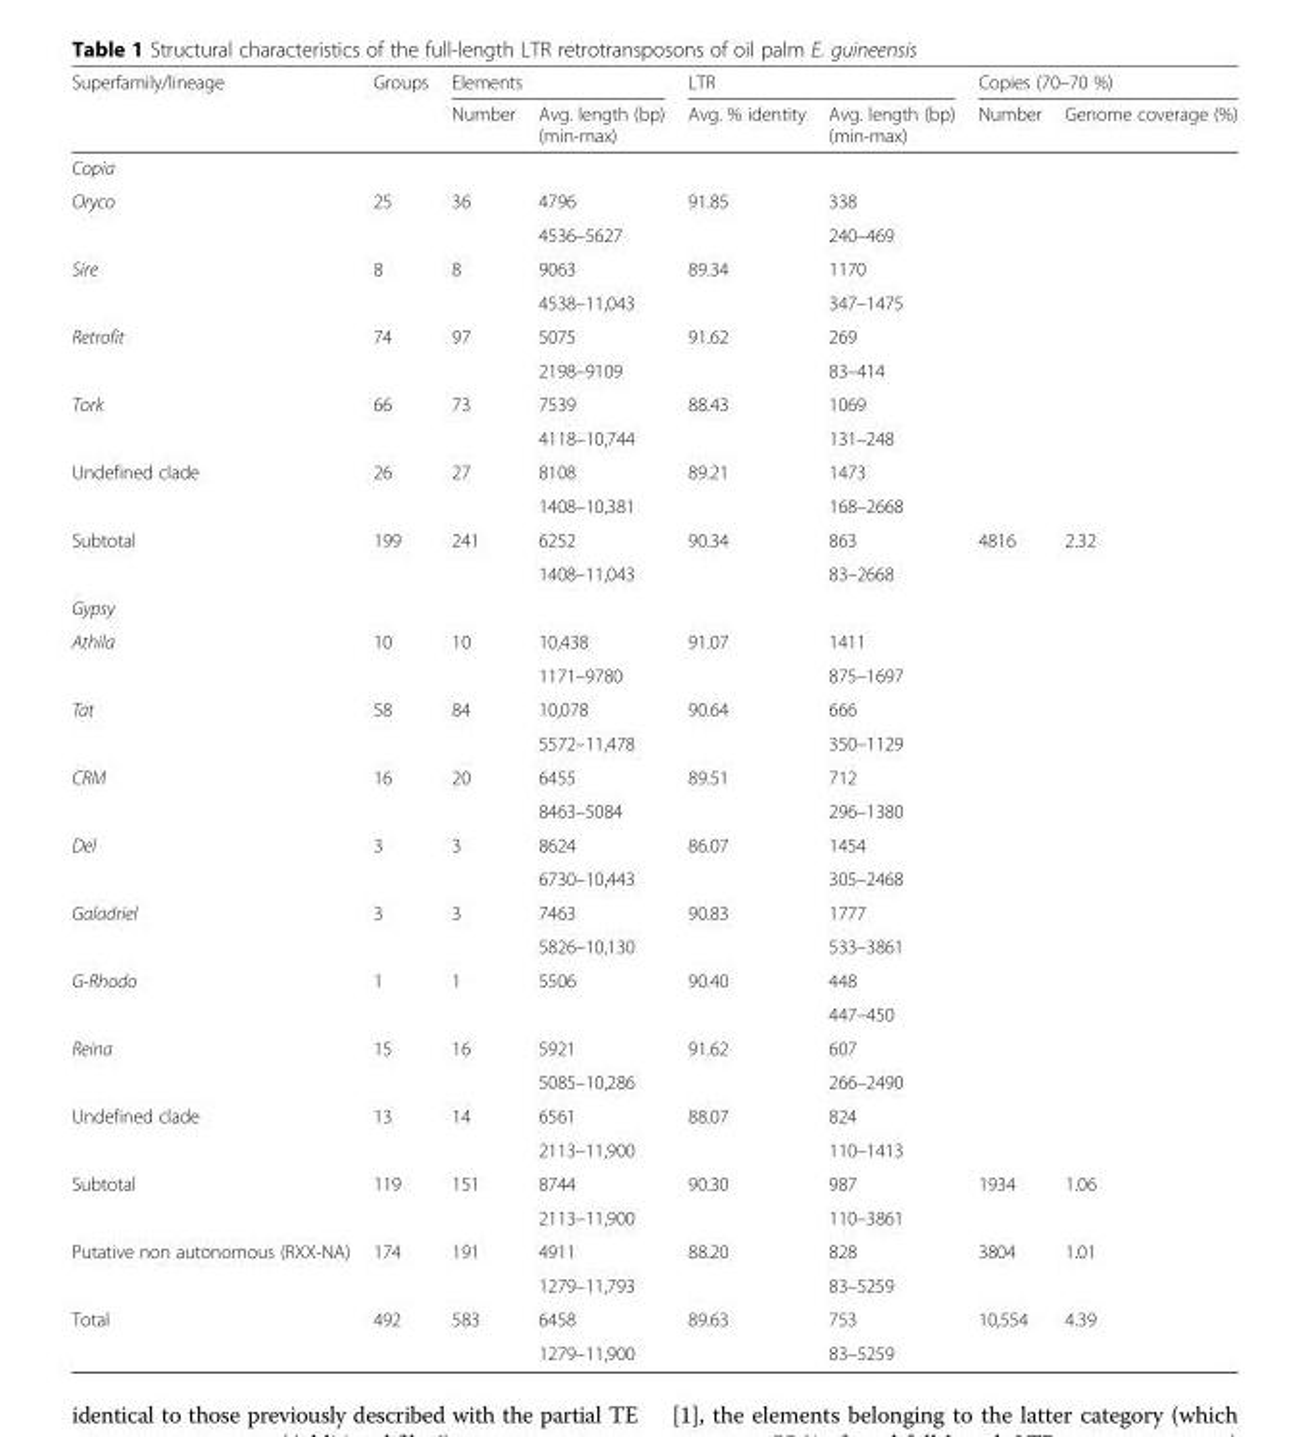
<table><thead><tr><td rowspan="2">Superfamily/lineage</td><td rowspan="2">Groups</td><td colspan="2">Elements</td><td colspan="2">LTR</td><td colspan="2">Copies (70–70 %)</td></tr><tr><td>Number</td><td>Avg. length (bp) (min-max)</td><td>Avg. % identity</td><td>Avg. length (bp) (min-max)</td><td>Number</td><td>Genome coverage (%)</td></tr></thead><tbody><tr><td colspan="8">Copia</td></tr><tr><td rowspan="2">Oryco</td><td>25</td><td>36</td><td>4796</td><td>91.85</td><td>338</td><td></td><td></td></tr><tr><td></td><td></td><td>4536–5627</td><td></td><td>240–469</td><td></td><td></td></tr><tr><td rowspan="2">Sire</td><td>8</td><td>8</td><td>9063</td><td>89.34</td><td>1170</td><td></td><td></td></tr><tr><td></td><td></td><td>4538–11,043</td><td></td><td>347–1475</td><td></td><td></td></tr><tr><td rowspan="2">Retrofit</td><td>74</td><td>97</td><td>5075</td><td>91.62</td><td>269</td><td></td><td></td></tr><tr><td></td><td></td><td>2198–9109</td><td></td><td>83–414</td><td></td><td></td></tr><tr><td rowspan="2">Tork</td><td>66</td><td>73</td><td>7539</td><td>88.43</td><td>1069</td><td></td><td></td></tr><tr><td></td><td></td><td>4118–10,744</td><td></td><td>131–248</td><td></td><td></td></tr><tr><td rowspan="2">Undefined clade</td><td>26</td><td>27</td><td>8108</td><td>89.21</td><td>1473</td><td></td><td></td></tr><tr><td></td><td></td><td>1408–10,381</td><td></td><td>168–2668</td><td></td><td></td></tr><tr><td rowspan="2">Subtotal</td><td>199</td><td>241</td><td>6252</td><td>90.34</td><td>863</td><td>4816</td><td>2.32</td></tr><tr><td></td><td></td><td>1408–11,043</td><td></td><td>83–2668</td><td></td><td></td></tr><tr><td colspan="8">Gypsy</td></tr><tr><td rowspan="2">Athila</td><td>10</td><td>10</td><td>10,438</td><td>91.07</td><td>1411</td><td></td><td></td></tr><tr><td></td><td></td><td>1171–9780</td><td></td><td>875–1697</td><td></td><td></td></tr><tr><td rowspan="2">Tat</td><td>58</td><td>84</td><td>10,078</td><td>90.64</td><td>666</td><td></td><td></td></tr><tr><td></td><td></td><td>5572–11,478</td><td></td><td>350–1129</td><td></td><td></td></tr><tr><td rowspan="2">CRM</td><td>16</td><td>20</td><td>6455</td><td>89.51</td><td>712</td><td></td><td></td></tr><tr><td></td><td></td><td>8463–5084</td><td></td><td>296–1380</td><td></td><td></td></tr><tr><td rowspan="2">Del</td><td>3</td><td>3</td><td>8624</td><td>86.07</td><td>1454</td><td></td><td></td></tr><tr><td></td><td></td><td>6730–10,443</td><td></td><td>305–2468</td><td></td><td></td></tr><tr><td rowspan="2">Galadriel</td><td>3</td><td>3</td><td>7463</td><td>90.83</td><td>1777</td><td></td><td></td></tr><tr><td></td><td></td><td>5826–10,130</td><td></td><td>533–3861</td><td></td><td></td></tr><tr><td rowspan="2">G-Rhodo</td><td>1</td><td>1</td><td>5506</td><td>90.40</td><td>448</td><td></td><td></td></tr><tr><td></td><td></td><td></td><td></td><td>447–450</td><td></td><td></td></tr><tr><td rowspan="2">Reina</td><td>15</td><td>16</td><td>5921</td><td>91.62</td><td>607</td><td></td><td></td></tr><tr><td></td><td></td><td>5085–10,286</td><td></td><td>266–2490</td><td></td><td></td></tr><tr><td rowspan="2">Undefined clade</td><td>13</td><td>14</td><td>6561</td><td>88.07</td><td>824</td><td></td><td></td></tr><tr><td></td><td></td><td>2113–11,900</td><td></td><td>110–1413</td><td></td><td></td></tr><tr><td rowspan="2">Subtotal</td><td>119</td><td>151</td><td>8744</td><td>90.30</td><td>987</td><td>1934</td><td>1.06</td></tr><tr><td></td><td></td><td>2113–11,900</td><td></td><td>110–3861</td><td></td><td></td></tr><tr><td rowspan="2">Putative non autonomous (RXX-NA)</td><td>174</td><td>191</td><td>4911</td><td>88.20</td><td>828</td><td>3804</td><td>1.01</td></tr><tr><td></td><td></td><td>1279–11,793</td><td></td><td>83–5259</td><td></td><td></td></tr><tr><td rowspan="2">Total</td><td>492</td><td>583</td><td>6458</td><td>89.63</td><td>753</td><td>10,554</td><td>4.39</td></tr><tr><td></td><td></td><td>1279–11,900</td><td></td><td>83–5259</td><td></td><td></td></tr></tbody></table>